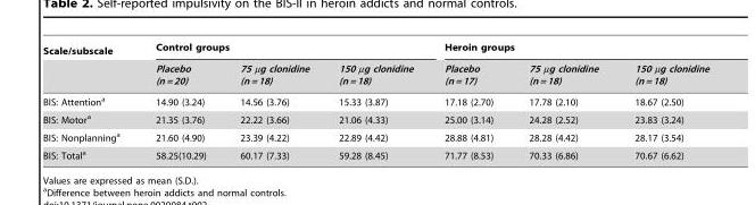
<table><thead><tr><td rowspan="2">Scale/subscale</td><td colspan="3">Control groups</td><td colspan="3">Heroin groups</td></tr><tr><td>Placebo (n = 20)</td><td>75 µg clonidine (n = 18)</td><td>150 µg clonidine (n = 18)</td><td>Placebo (n = 17)</td><td>75 µg clonidine (n = 18)</td><td>150 µg clonidine (n = 18)</td></tr></thead><tbody><tr><td>BIS: Attention<sup>a</sup></td><td>14.90 (3.24)</td><td>14.56 (3.76)</td><td>15.33 (3.87)</td><td>17.18 (2.70)</td><td>17.78 (2.10)</td><td>18.67 (2.50)</td></tr><tr><td>BIS: Motor<sup>a</sup></td><td>21.35 (3.76)</td><td>22.22 (3.66)</td><td>21.06 (4.33)</td><td>25.00 (3.14)</td><td>24.28 (2.52)</td><td>23.83 (3.24)</td></tr><tr><td>BIS: Nonplanning<sup>a</sup></td><td>21.60 (4.90)</td><td>23.39 (4.22)</td><td>22.89 (4.42)</td><td>28.88 (4.81)</td><td>28.28 (4.42)</td><td>28.17 (3.54)</td></tr><tr><td>BIS: Total<sup>a</sup></td><td>58.25(10.29)</td><td>60.17 (7.33)</td><td>59.28 (8.45)</td><td>71.77 (8.53)</td><td>70.33 (6.86)</td><td>70.67 (6.62)</td></tr></tbody></table>